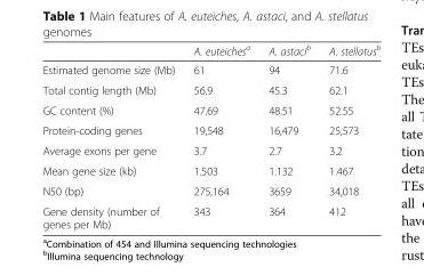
<table><thead><tr><td></td><td>A. euteiches<sup>a</sup></td><td>A. astaci<sup>b</sup></td><td>A. stellatus<sup>b</sup></td></tr></thead><tbody><tr><td>Estimated genome size (Mb)</td><td>61</td><td>94</td><td>71.6</td></tr><tr><td>Total contig length (Mb)</td><td>56.9</td><td>45.3</td><td>62.1</td></tr><tr><td>GC content (%)</td><td>47.69</td><td>48.51</td><td>52.55</td></tr><tr><td>Protein-coding genes</td><td>19,548</td><td>16,479</td><td>25,573</td></tr><tr><td>Average exons per gene</td><td>3.7</td><td>2.7</td><td>3.2</td></tr><tr><td>Mean gene size (kb)</td><td>1.503</td><td>1.132</td><td>1.467</td></tr><tr><td>N50 (bp)</td><td>275,164</td><td>3659</td><td>34,018</td></tr><tr><td>Gene density (number of genes per Mb)</td><td>343</td><td>364</td><td>412</td></tr></tbody></table>